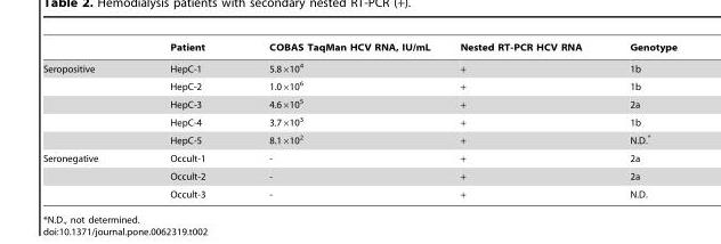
<table><thead><tr><td></td><td>Patient</td><td>COBAS TaqMan HCV RNA, IU/mL</td><td>Nested RT-PCR HCV RNA</td><td>Genotype</td></tr></thead><tbody><tr><td rowspan="5">Seropositive</td><td>HepC-1</td><td>5.8×10<sup>4</sup></td><td>+</td><td>1b</td></tr><tr><td>HepC-2</td><td>1.0×10<sup>6</sup></td><td>+</td><td>1b</td></tr><tr><td>HepC-3</td><td>4.6×10<sup>5</sup></td><td>+</td><td>2a</td></tr><tr><td>HepC-4</td><td>3.7×10<sup>3</sup></td><td>+</td><td>1b</td></tr><tr><td>HepC-5</td><td>8.1×10<sup>2</sup></td><td>+</td><td>N.D.*</td></tr><tr><td rowspan="3">Seronegative</td><td>Occult-1</td><td>-</td><td>+</td><td>2a</td></tr><tr><td>Occult-2</td><td>-</td><td>+</td><td>2a</td></tr><tr><td>Occult-3</td><td>-</td><td>+</td><td>N.D.</td></tr></tbody></table>